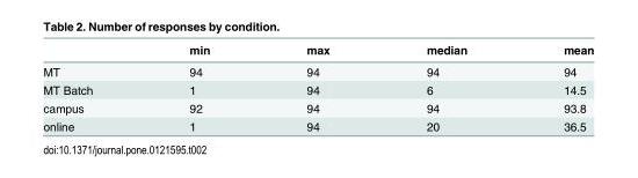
<table><thead><tr><td></td><td>min</td><td>max</td><td>median</td><td>mean</td></tr></thead><tbody><tr><td>MT</td><td>94</td><td>94</td><td>94</td><td>94</td></tr><tr><td>MT Batch</td><td>1</td><td>94</td><td>6</td><td>14.5</td></tr><tr><td>campus</td><td>92</td><td>94</td><td>94</td><td>93.8</td></tr><tr><td>online</td><td>1</td><td>94</td><td>20</td><td>36.5</td></tr></tbody></table>